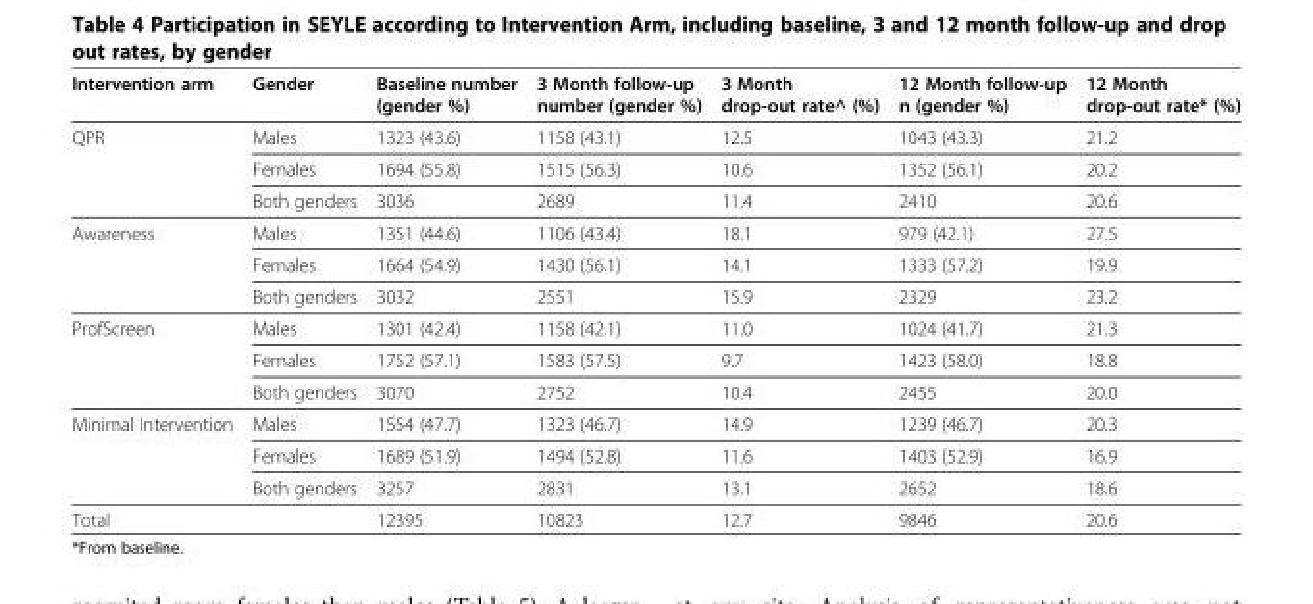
<table><thead><tr><td>Intervention arm</td><td>Gender</td><td>Baseline number (gender %)</td><td>3 Month follow-up number (gender %)</td><td>3 Month drop-out rate^ (%)</td><td>12 Month follow-up n (gender %)</td><td>12 Month drop-out rate* (%)</td></tr></thead><tbody><tr><td rowspan="3">QPR</td><td>Males</td><td>1323 (43.6)</td><td>1158 (43.1)</td><td>12.5</td><td>1043 (43.3)</td><td>21.2</td></tr><tr><td>Females</td><td>1694 (55.8)</td><td>1515 (56.3)</td><td>10.6</td><td>1352 (56.1)</td><td>20.2</td></tr><tr><td>Both genders</td><td>3036</td><td>2689</td><td>11.4</td><td>2410</td><td>20.6</td></tr><tr><td rowspan="3">Awareness</td><td>Males</td><td>1351 (44.6)</td><td>1106 (43.4)</td><td>18.1</td><td>979 (42.1)</td><td>27.5</td></tr><tr><td>Females</td><td>1664 (54.9)</td><td>1430 (56.1)</td><td>14.1</td><td>1333 (57.2)</td><td>19.9</td></tr><tr><td>Both genders</td><td>3032</td><td>2551</td><td>15.9</td><td>2329</td><td>23.2</td></tr><tr><td rowspan="3">ProfScreen</td><td>Males</td><td>1301 (42.4)</td><td>1158 (42.1)</td><td>11.0</td><td>1024 (41.7)</td><td>21.3</td></tr><tr><td>Females</td><td>1752 (57.1)</td><td>1583 (57.5)</td><td>9.7</td><td>1423 (58.0)</td><td>18.8</td></tr><tr><td>Both genders</td><td>3070</td><td>2752</td><td>10.4</td><td>2455</td><td>20.0</td></tr><tr><td rowspan="3">Minimal Intervention</td><td>Males</td><td>1554 (47.7)</td><td>1323 (46.7)</td><td>14.9</td><td>1239 (46.7)</td><td>20.3</td></tr><tr><td>Females</td><td>1689 (51.9)</td><td>1494 (52.8)</td><td>11.6</td><td>1403 (52.9)</td><td>16.9</td></tr><tr><td>Both genders</td><td>3257</td><td>2831</td><td>13.1</td><td>2652</td><td>18.6</td></tr><tr><td>Total</td><td></td><td>12395</td><td>10823</td><td>12.7</td><td>9846</td><td>20.6</td></tr></tbody></table>